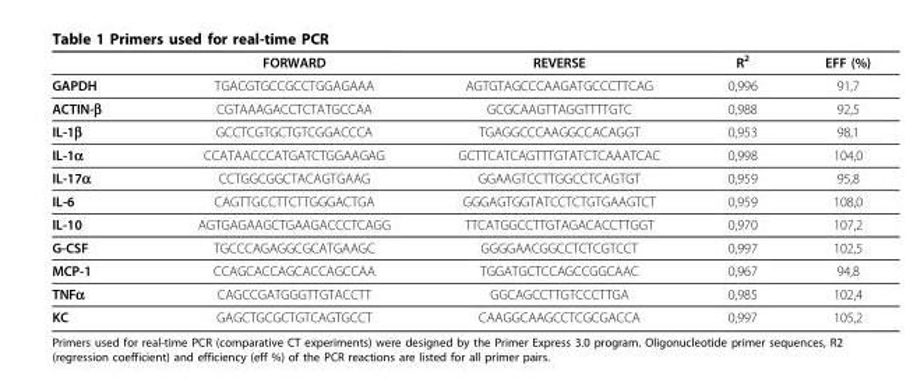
<table><thead><tr><td></td><td>FORWARD</td><td>REVERSE</td><td>R<sup>2</sup></td><td>EFF (%)</td></tr></thead><tbody><tr><td>GAPDH</td><td>TGACGTGCCGCCTGGAGAAA</td><td>AGTGTAGCCCAAGATGCCCTTCAG</td><td>0,996</td><td>91,7</td></tr><tr><td>ACTIN-β</td><td>CGTAAAGACCTCTATGCCAA</td><td>GCGCAAGTTAGGTTTTGTC</td><td>0,988</td><td>92,5</td></tr><tr><td>IL-1β</td><td>GCCTCGTGCTGTCGGACCCA</td><td>TGAGGCCCAAGGCCACAGGT</td><td>0,953</td><td>98,1</td></tr><tr><td>IL-1α</td><td>CCATAACCCATGATCTGGAAGAG</td><td>GCTTCATCAGTTTGTATCTCAAATCAC</td><td>0,998</td><td>104,0</td></tr><tr><td>IL-17α</td><td>CCTGGCGGCTACAGTGAAG</td><td>GGAAGTCCTTGGCCTCAGTGT</td><td>0,959</td><td>95,8</td></tr><tr><td>IL-6</td><td>CAGTTGCCTTCTTGGGACTGA</td><td>GGGAGTGGTATCCTCTGTGAAGTCT</td><td>0,959</td><td>108,0</td></tr><tr><td>IL-10</td><td>AGTGAGAAGCTGAAGACCCTCAGG</td><td>TTCATGGCCTTGTAGACACCTTGGT</td><td>0,970</td><td>107,2</td></tr><tr><td>G-CSF</td><td>TGCCCAGAGGCGCATGAAGC</td><td>GGGGAACGGCCTCTCGTCCT</td><td>0,997</td><td>102,5</td></tr><tr><td>MCP-1</td><td>CCAGCACCAGCACCAGCCAA</td><td>TGGATGCTCCAGCCGGCAAC</td><td>0,967</td><td>94,8</td></tr><tr><td>TNFα</td><td>CAGCCGATGGGTTGTACCTT</td><td>GGCAGCCTTGTCCCTTGA</td><td>0,985</td><td>102,4</td></tr><tr><td>KC</td><td>GAGCTGCGCTGTCAGTGCCT</td><td>CAAGGCAAGCCTCGCGACCA</td><td>0,997</td><td>105,2</td></tr></tbody></table>